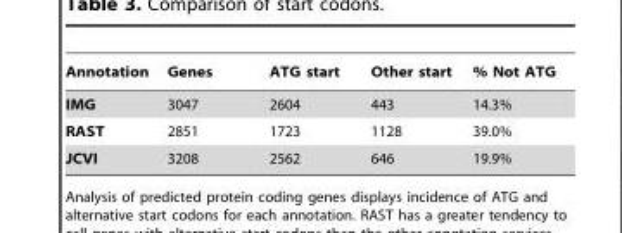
<table><thead><tr><td>Annotation</td><td>Genes</td><td>ATG start</td><td>Other start</td><td>% Not ATG</td></tr></thead><tbody><tr><td>IMG</td><td>3047</td><td>2604</td><td>443</td><td>14.3%</td></tr><tr><td>RAST</td><td>2851</td><td>1723</td><td>1128</td><td>39.0%</td></tr><tr><td>JCVI</td><td>3208</td><td>2562</td><td>646</td><td>19.9%</td></tr></tbody></table>